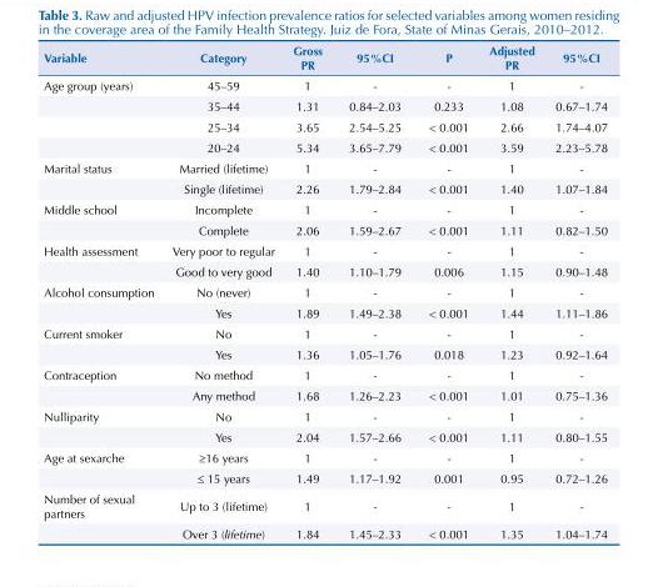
<table><thead><tr><td>Variable</td><td>Category</td><td>Gross PR</td><td>95%CI</td><td>P</td><td>Adjusted PR</td><td>95%CI</td></tr></thead><tbody><tr><td rowspan="4">Age group (years)</td><td>45–59</td><td>1</td><td>-</td><td>-</td><td>1</td><td>-</td></tr><tr><td>35–44</td><td>1.31</td><td>0.84–2.03</td><td>0.233</td><td>1.08</td><td>0.67–1.74</td></tr><tr><td>25–34</td><td>3.65</td><td>2.54–5.25</td><td>&lt; 0.001</td><td>2.66</td><td>1.74–4.07</td></tr><tr><td>20–24</td><td>5.34</td><td>3.65–7.79</td><td>&lt; 0.001</td><td>3.59</td><td>2.23–5.78</td></tr><tr><td rowspan="2">Marital status</td><td>Married (lifetime)</td><td>1</td><td>-</td><td>-</td><td>1</td><td>-</td></tr><tr><td>Single (lifetime)</td><td>2.26</td><td>1.79–2.84</td><td>&lt; 0.001</td><td>1.40</td><td>1.07–1.84</td></tr><tr><td rowspan="2">Middle school</td><td>Incomplete</td><td>1</td><td>-</td><td>-</td><td>1</td><td>-</td></tr><tr><td>Complete</td><td>2.06</td><td>1.59–2.67</td><td>&lt; 0.001</td><td>1.11</td><td>0.82–1.50</td></tr><tr><td rowspan="2">Health assessment</td><td>Very poor to regular</td><td>1</td><td>-</td><td>-</td><td>1</td><td>-</td></tr><tr><td>Good to very good</td><td>1.40</td><td>1.10–1.79</td><td>0.006</td><td>1.15</td><td>0.90–1.48</td></tr><tr><td rowspan="2">Alcohol consumption</td><td>No (never)</td><td>1</td><td>-</td><td>-</td><td>1</td><td>-</td></tr><tr><td>Yes</td><td>1.89</td><td>1.49–2.38</td><td>&lt; 0.001</td><td>1.44</td><td>1.11–1.86</td></tr><tr><td rowspan="2">Current smoker</td><td>No</td><td>1</td><td>-</td><td>-</td><td>1</td><td>-</td></tr><tr><td>Yes</td><td>1.36</td><td>1.05–1.76</td><td>0.018</td><td>1.23</td><td>0.92–1.64</td></tr><tr><td rowspan="2">Contraception</td><td>No method</td><td>1</td><td>-</td><td>-</td><td>1</td><td>-</td></tr><tr><td>Any method</td><td>1.68</td><td>1.26–2.23</td><td>&lt; 0.001</td><td>1.01</td><td>0.75–1.36</td></tr><tr><td rowspan="2">Nulliparity</td><td>No</td><td>1</td><td>-</td><td>-</td><td>1</td><td>-</td></tr><tr><td>Yes</td><td>2.04</td><td>1.57–2.66</td><td>&lt; 0.001</td><td>1.11</td><td>0.80–1.55</td></tr><tr><td rowspan="2">Age at sexarche</td><td>≥16 years</td><td>1</td><td>-</td><td>-</td><td>1</td><td>-</td></tr><tr><td>≤ 15 years</td><td>1.49</td><td>1.17–1.92</td><td>0.001</td><td>0.95</td><td>0.72–1.26</td></tr><tr><td rowspan="2">Number of sexual partners</td><td>Up to 3 (lifetime)</td><td>1</td><td>-</td><td>-</td><td>1</td><td>-</td></tr><tr><td>Over 3 (lifetime)</td><td>1.84</td><td>1.45–2.33</td><td>&lt; 0.001</td><td>1.35</td><td>1.04–1.74</td></tr></tbody></table>